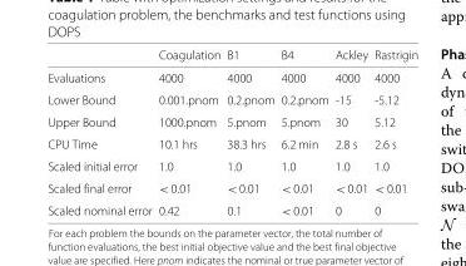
<table><thead><tr><td></td><td>Coagulation</td><td>B1</td><td>B4</td><td>Ackley</td><td>Rastrigin</td></tr></thead><tbody><tr><td>Evaluations</td><td>4000</td><td>4000</td><td>4000</td><td>4000</td><td>4000</td></tr><tr><td>Lower Bound</td><td>0.001.pnom</td><td>0.2.pnom</td><td>0.2.pnom</td><td>-15</td><td>-5.12</td></tr><tr><td>Upper Bound</td><td>1000.pnom</td><td>5.pnom</td><td>5.pnom</td><td>30</td><td>5.12</td></tr><tr><td>CPU Time</td><td>10.1 hrs</td><td>38.3 hrs</td><td>6.2 min</td><td>2.8 s</td><td>2.6 s</td></tr><tr><td>Scaled initial error</td><td>1.0</td><td>1.0</td><td>1.0</td><td>1.0</td><td>1.0</td></tr><tr><td>Scaled final error</td><td>&lt; 0.01</td><td>&lt; 0.01</td><td>&lt; 0.01</td><td>&lt; 0.01</td><td>&lt; 0.01</td></tr><tr><td>Scaled nominal error</td><td>0.42</td><td>0.1</td><td>&lt; 0.01</td><td>0</td><td>0</td></tr></tbody></table>